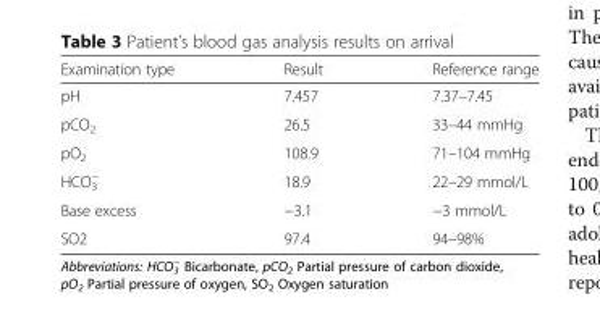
<table><thead><tr><td>Examination type</td><td>Result</td><td>Reference range</td></tr></thead><tbody><tr><td>pH</td><td>7.457</td><td>7.37–7.45</td></tr><tr><td>pCO<sub>2</sub></td><td>26.5</td><td>33–44 mmHg</td></tr><tr><td>pO<sub>2</sub></td><td>108.9</td><td>71–104 mmHg</td></tr><tr><td>HCO<sub>3</sub> <sup>−</sup></td><td>18.9</td><td>22–29 mmol/L</td></tr><tr><td>Base excess</td><td>−3.1</td><td>−3 mmol/L</td></tr><tr><td>SO2</td><td>97.4</td><td>94–98%</td></tr></tbody></table>